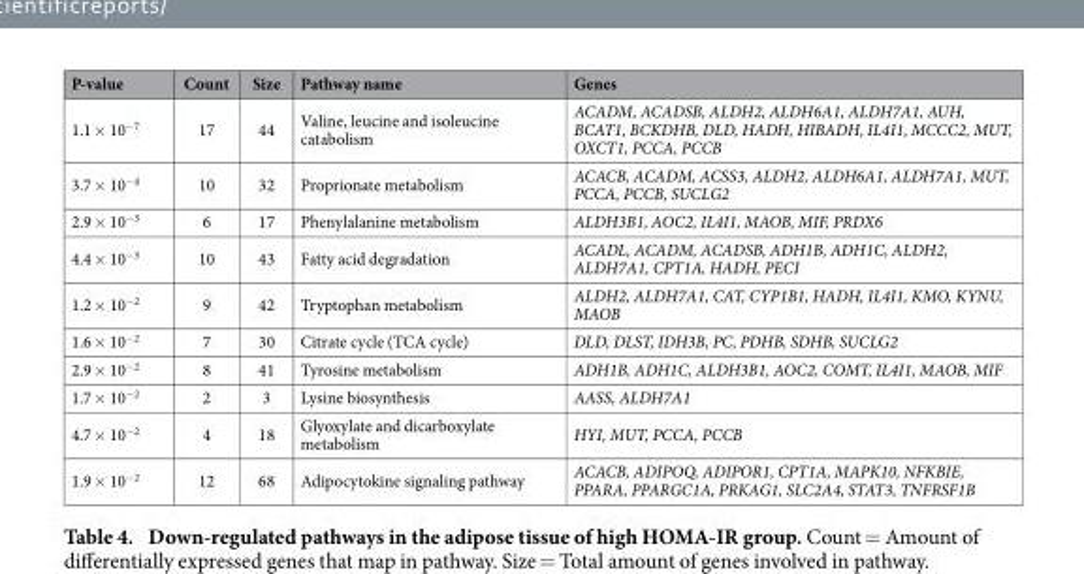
<table><thead><tr><td>P-value</td><td>Count</td><td>Size</td><td>Pathway name</td><td>Genes</td></tr></thead><tbody><tr><td>1.1 × 10<sup>−7</sup></td><td>17</td><td>44</td><td>Valine, leucine and isoleucine catabolism</td><td>ACADM, ACADSB, ALDH2, ALDH6A1, ALDH7A1, AUH, BCAT1, BCKDHB, DLD, HADH, HIBADH, IL4I1, MCCC2, MUT, OXCT1, PCCA, PCCB</td></tr><tr><td>3.7 × 10<sup>−4</sup></td><td>10</td><td>32</td><td>Proprionate metabolism</td><td>ACACB, ACADM, ACSS3, ALDH2, ALDH6A1, ALDH7A1, MUT, PCCA, PCCB, SUCLG2</td></tr><tr><td>2.9 × 10<sup>−3</sup></td><td>6</td><td>17</td><td>Phenylalanine metabolism</td><td>ALDH3B1, AOC2, IL4I1, MAOB, MIF, PRDX6</td></tr><tr><td>4.4 × 10<sup>−3</sup></td><td>10</td><td>43</td><td>Fatty acid degradation</td><td>ACADL, ACADM, ACADSB, ADH1B, ADH1C, ALDH2, ALDH7A1, CPT1A, HADH, PECI</td></tr><tr><td>1.2 × 10<sup>−2</sup></td><td>9</td><td>42</td><td>Tryptophan metabolism</td><td>ALDH2, ALDH7A1, CAT, CYP1B1, HADH, IL4I1, KMO, KYNU, MAOB</td></tr><tr><td>1.6 × 10<sup>−2</sup></td><td>7</td><td>30</td><td>Citrate cycle (TCA cycle)</td><td>DLD, DLST, IDH3B, PC, PDHB, SDHB, SUCLG2</td></tr><tr><td>2.9 × 10<sup>−2</sup></td><td>8</td><td>41</td><td>Tyrosine metabolism</td><td>ADH1B, ADH1C, ALDH3B1, AOC2, COMT, IL4I1, MAOB, MIF</td></tr><tr><td>1.7 × 10<sup>−2</sup></td><td>2</td><td>3</td><td>Lysine biosynthesis</td><td>AASS, ALDH7A1</td></tr><tr><td>4.7 × 10<sup>−2</sup></td><td>4</td><td>18</td><td>Glyoxylate and dicarboxylate metabolism</td><td>HYI, MUT, PCCA, PCCB</td></tr><tr><td>1.9 × 10<sup>−2</sup></td><td>12</td><td>68</td><td>Adipocytokine signaling pathway</td><td>ACACB, ADIPOQ, ADIPOR1, CPT1A, MAPK10, NFKBIE, PPARA, PPARGC1A, PRKAG1, SLC2A4, STAT3, TNFRSF1B</td></tr></tbody></table>